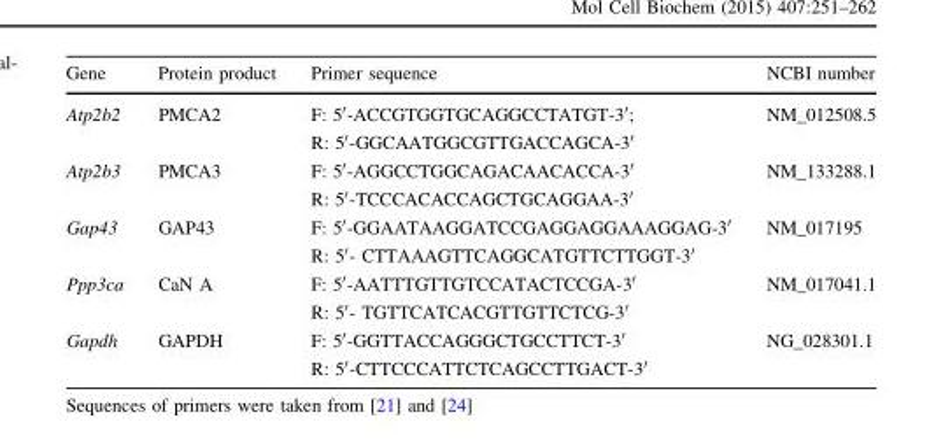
<table><thead><tr><td>Gene</td><td>Protein product</td><td>Primer sequence</td><td>NCBI number</td></tr></thead><tbody><tr><td>Atp2b2</td><td>PMCA2</td><td>F: 5′-ACCGTGGTGCAGGCCTATGT-3′; R: 5′-GGCAATGGCGTTGACCAGCA-3′</td><td>NM_012508.5</td></tr><tr><td>Atp2b3</td><td>PMCA3</td><td>F: 5′-AGGCCTGGCAGACAACACCA-3′ R: 5′-TCCCACACCAGCTGCAGGAA-3′</td><td>NM_133288.1</td></tr><tr><td>Gap43</td><td>GAP43</td><td>F: 5′-GGAATAAGGATCCGAGGAGGAAAGGAG-3′ R: 5′- CTTAAAGTTCAGGCATGTTCTTGGT-3′</td><td>NM_017195</td></tr><tr><td>Ppp3ca</td><td>CaN A</td><td>F: 5′-AATTTGTTGTCCATACTCCGA-3′ R: 5′- TGTTCATCACGTTGTTCTCG-3′</td><td>NM_017041.1</td></tr><tr><td>Gapdh</td><td>GAPDH</td><td>F: 5′-GGTTACCAGGGCTGCCTTCT-3′ R: 5′-CTTCCCATTCTCAGCCTTGACT-3′</td><td>NG_028301.1</td></tr></tbody></table>